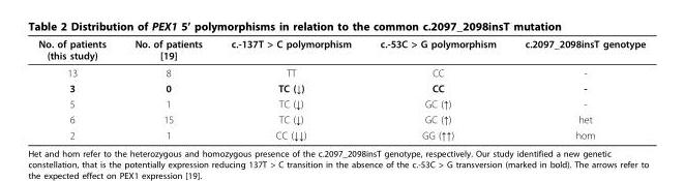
<table><thead><tr><td>No. of patients (this study)</td><td>No. of patients [19]</td><td>c.-137T &gt; C polymorphism</td><td>c.-53C &gt; G polymorphism</td><td>c.2097_2098insT genotype</td></tr></thead><tbody><tr><td>13</td><td>8</td><td>TT</td><td>CC</td><td>-</td></tr><tr><td>3</td><td>0</td><td>TC (↓)</td><td>CC</td><td>-</td></tr><tr><td>5</td><td>1</td><td>TC (↓)</td><td>GC (↑)</td><td>-</td></tr><tr><td>6</td><td>15</td><td>TC (↓)</td><td>GC (↑)</td><td>het</td></tr><tr><td>2</td><td>1</td><td>CC (↓↓)</td><td>GG (↑↑)</td><td>hom</td></tr></tbody></table>